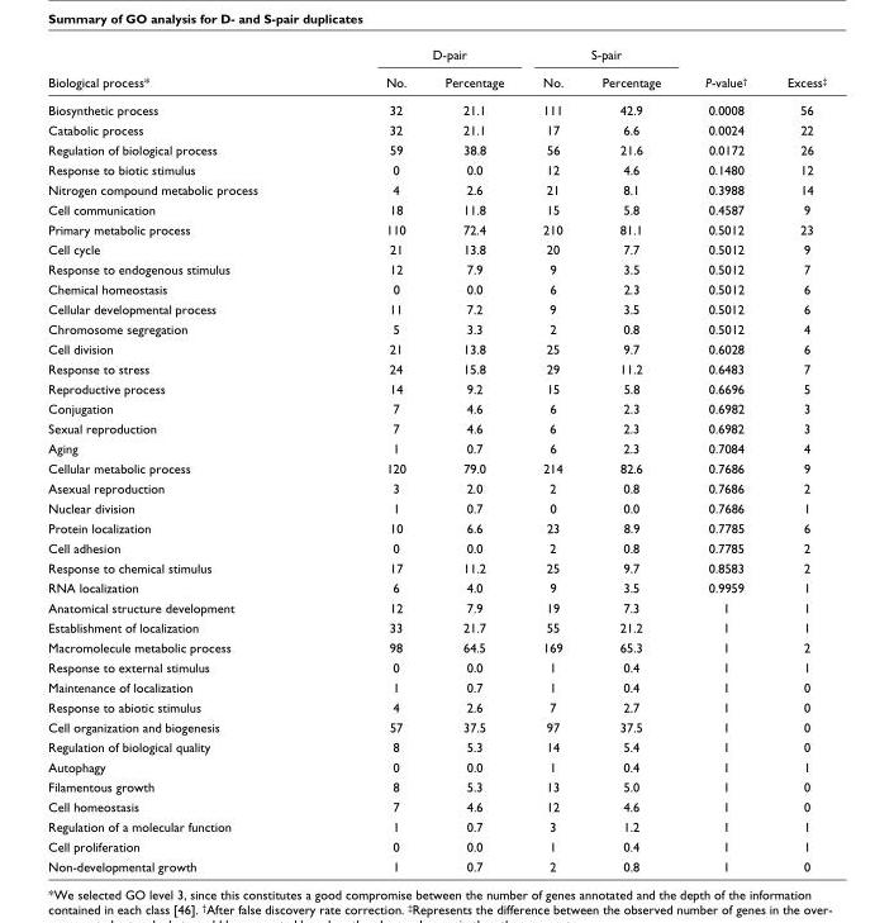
<table><thead><tr><td rowspan="2">Biological process*</td><td colspan="2">D-pair</td><td colspan="2">S-pair</td><td rowspan="2">P-value<sup>†</sup></td><td rowspan="2">Excess<sup>‡</sup></td></tr><tr><td>No.</td><td>Percentage</td><td>No.</td><td>Percentage</td></tr></thead><tbody><tr><td>Biosynthetic process</td><td>32</td><td>21.1</td><td>111</td><td>42.9</td><td>0.0008</td><td>56</td></tr><tr><td>Catabolic process</td><td>32</td><td>21.1</td><td>17</td><td>6.6</td><td>0.0024</td><td>22</td></tr><tr><td>Regulation of biological process</td><td>59</td><td>38.8</td><td>56</td><td>21.6</td><td>0.0172</td><td>26</td></tr><tr><td>Response to biotic stimulus</td><td>0</td><td>0.0</td><td>12</td><td>4.6</td><td>0.1480</td><td>12</td></tr><tr><td>Nitrogen compound metabolic process</td><td>4</td><td>2.6</td><td>21</td><td>8.1</td><td>0.3988</td><td>14</td></tr><tr><td>Cell communication</td><td>18</td><td>11.8</td><td>15</td><td>5.8</td><td>0.4587</td><td>9</td></tr><tr><td>Primary metabolic process</td><td>110</td><td>72.4</td><td>210</td><td>81.1</td><td>0.5012</td><td>23</td></tr><tr><td>Cell cycle</td><td>21</td><td>13.8</td><td>20</td><td>7.7</td><td>0.5012</td><td>9</td></tr><tr><td>Response to endogenous stimulus</td><td>12</td><td>7.9</td><td>9</td><td>3.5</td><td>0.5012</td><td>7</td></tr><tr><td>Chemical homeostasis</td><td>0</td><td>0.0</td><td>6</td><td>2.3</td><td>0.5012</td><td>6</td></tr><tr><td>Cellular developmental process</td><td>11</td><td>7.2</td><td>9</td><td>3.5</td><td>0.5012</td><td>6</td></tr><tr><td>Chromosome segregation</td><td>5</td><td>3.3</td><td>2</td><td>0.8</td><td>0.5012</td><td>4</td></tr><tr><td>Cell division</td><td>21</td><td>13.8</td><td>25</td><td>9.7</td><td>0.6028</td><td>6</td></tr><tr><td>Response to stress</td><td>24</td><td>15.8</td><td>29</td><td>11.2</td><td>0.6483</td><td>7</td></tr><tr><td>Reproductive process</td><td>14</td><td>9.2</td><td>15</td><td>5.8</td><td>0.6696</td><td>5</td></tr><tr><td>Conjugation</td><td>7</td><td>4.6</td><td>6</td><td>2.3</td><td>0.6982</td><td>3</td></tr><tr><td>Sexual reproduction</td><td>7</td><td>4.6</td><td>6</td><td>2.3</td><td>0.6982</td><td>3</td></tr><tr><td>Aging</td><td>1</td><td>0.7</td><td>6</td><td>2.3</td><td>0.7084</td><td>4</td></tr><tr><td>Cellular metabolic process</td><td>120</td><td>79.0</td><td>214</td><td>82.6</td><td>0.7686</td><td>9</td></tr><tr><td>Asexual reproduction</td><td>3</td><td>2.0</td><td>2</td><td>0.8</td><td>0.7686</td><td>2</td></tr><tr><td>Nuclear division</td><td>1</td><td>0.7</td><td>0</td><td>0.0</td><td>0.7686</td><td>1</td></tr><tr><td>Protein localization</td><td>10</td><td>6.6</td><td>23</td><td>8.9</td><td>0.7785</td><td>6</td></tr><tr><td>Cell adhesion</td><td>0</td><td>0.0</td><td>2</td><td>0.8</td><td>0.7785</td><td>2</td></tr><tr><td>Response to chemical stimulus</td><td>17</td><td>11.2</td><td>25</td><td>9.7</td><td>0.8583</td><td>2</td></tr><tr><td>RNA localization</td><td>6</td><td>4.0</td><td>9</td><td>3.5</td><td>0.9959</td><td>1</td></tr><tr><td>Anatomical structure development</td><td>12</td><td>7.9</td><td>19</td><td>7.3</td><td>1</td><td>1</td></tr><tr><td>Establishment of localization</td><td>33</td><td>21.7</td><td>55</td><td>21.2</td><td>1</td><td>1</td></tr><tr><td>Macromolecule metabolic process</td><td>98</td><td>64.5</td><td>169</td><td>65.3</td><td>1</td><td>2</td></tr><tr><td>Response to external stimulus</td><td>0</td><td>0.0</td><td>1</td><td>0.4</td><td>1</td><td>1</td></tr><tr><td>Maintenance of localization</td><td>1</td><td>0.7</td><td>1</td><td>0.4</td><td>1</td><td>0</td></tr><tr><td>Response to abiotic stimulus</td><td>4</td><td>2.6</td><td>7</td><td>2.7</td><td>1</td><td>0</td></tr><tr><td>Cell organization and biogenesis</td><td>57</td><td>37.5</td><td>97</td><td>37.5</td><td>1</td><td>0</td></tr><tr><td>Regulation of biological quality</td><td>8</td><td>5.3</td><td>14</td><td>5.4</td><td>1</td><td>0</td></tr><tr><td>Autophagy</td><td>0</td><td>0.0</td><td>1</td><td>0.4</td><td>1</td><td>1</td></tr><tr><td>Filamentous growth</td><td>8</td><td>5.3</td><td>13</td><td>5.0</td><td>1</td><td>0</td></tr><tr><td>Cell homeostasis</td><td>7</td><td>4.6</td><td>12</td><td>4.6</td><td>1</td><td>0</td></tr><tr><td>Regulation of a molecular function</td><td>1</td><td>0.7</td><td>3</td><td>1.2</td><td>1</td><td>1</td></tr><tr><td>Cell proliferation</td><td>0</td><td>0.0</td><td>1</td><td>0.4</td><td>1</td><td>1</td></tr><tr><td>Non-developmental growth</td><td>1</td><td>0.7</td><td>2</td><td>0.8</td><td>1</td><td>0</td></tr></tbody></table>